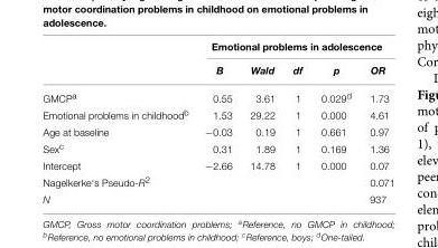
<table><thead><tr><td rowspan="2"></td><td colspan="5">Emotional problems in adolescence</td></tr><tr><td>B</td><td>Wald</td><td>df</td><td>p</td><td>OR</td></tr></thead><tbody><tr><td>GMCP<sup>a</sup></td><td>0.55</td><td>3.61</td><td>1</td><td>0.029<sup>d</sup></td><td>1.73</td></tr><tr><td>Emotional problems in childhood<sup>b</sup></td><td>1.53</td><td>29.22</td><td>1</td><td>0.000</td><td>4.61</td></tr><tr><td>Age at baseline</td><td>−0.03</td><td>0.19</td><td>1</td><td>0.661</td><td>0.97</td></tr><tr><td>Sex<sup>c</sup></td><td>0.31</td><td>1.89</td><td>1</td><td>0.169</td><td>1.36</td></tr><tr><td>Intercept</td><td>−2.66</td><td>14.78</td><td>1</td><td>0.000</td><td>0.07</td></tr><tr><td>Nagelkerke‘s Pseudo-R<sup>2</sup></td><td></td><td></td><td></td><td></td><td>0.071</td></tr><tr><td>N</td><td></td><td></td><td></td><td></td><td>937</td></tr></tbody></table>